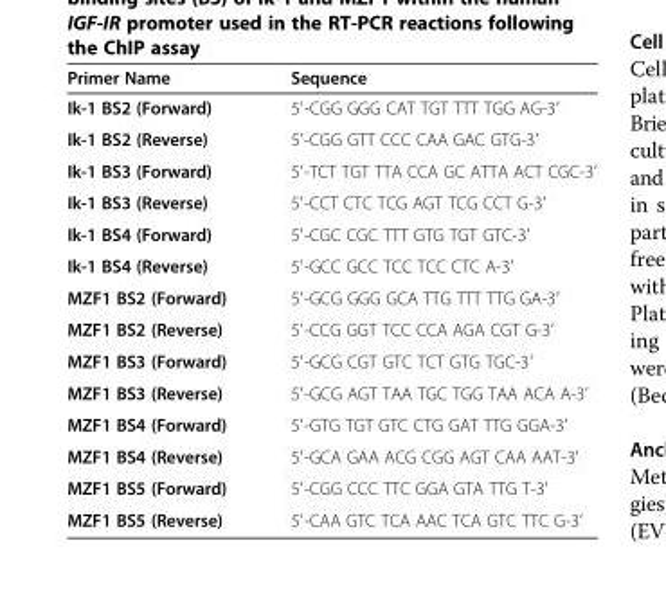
<table><thead><tr><td>Primer Name</td><td>Sequence</td></tr></thead><tbody><tr><td>Ik-1 BS2 (Forward)</td><td>5′-CGG GGG CAT TGT TTT TGG AG-3′</td></tr><tr><td>Ik-1 BS2 (Reverse)</td><td>5′-CGG GTT CCC CAA GAC GTG-3′</td></tr><tr><td>Ik-1 BS3 (Forward)</td><td>5′-TCT TGT TTA CCA GC ATTA ACT CGC-3′</td></tr><tr><td>Ik-1 BS3 (Reverse)</td><td>5′-CCT CTC TCG AGT TCG CCT G-3′</td></tr><tr><td>Ik-1 BS4 (Forward)</td><td>5′-CGC CGC TTT GTG TGT GTC-3′</td></tr><tr><td>Ik-1 BS4 (Reverse)</td><td>5′-GCC GCC TCC TCC CTC A-3′</td></tr><tr><td>MZF1 BS2 (Forward)</td><td>5′-GCG GGG GCA TTG TTT TTG GA-3′</td></tr><tr><td>MZF1 BS2 (Reverse)</td><td>5′-CCG GGT TCC CCA AGA CGT G-3′</td></tr><tr><td>MZF1 BS3 (Forward)</td><td>5′-GCG CGT GTC TCT GTG TGC-3′</td></tr><tr><td>MZF1 BS3 (Reverse)</td><td>5′-GCG AGT TAA TGC TGG TAA ACA A-3′</td></tr><tr><td>MZF1 BS4 (Forward)</td><td>5′-GTG TGT GTC CTG GAT TTG GGA-3′</td></tr><tr><td>MZF1 BS4 (Reverse)</td><td>5′-GCA GAA ACG CGG AGT CAA AAT-3′</td></tr><tr><td>MZF1 BS5 (Forward)</td><td>5′-CGG CCC TTC GGA GTA TTG T-3′</td></tr><tr><td>MZF1 BS5 (Reverse)</td><td>5′-CAA GTC TCA AAC TCA GTC TTC G-3′</td></tr></tbody></table>